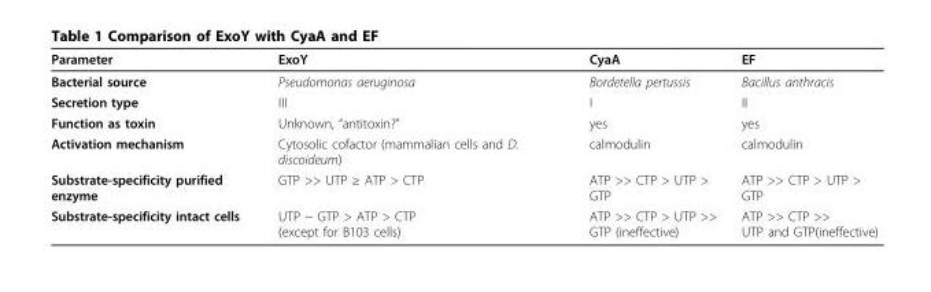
<table><thead><tr><td>Parameter</td><td>ExoY</td><td>CyaA</td><td>EF</td></tr></thead><tbody><tr><td>Bacterial source</td><td>Pseudomonas aeruginosa</td><td>Bordetella pertussis</td><td>Bacillus anthracis</td></tr><tr><td>Secretion type</td><td>III</td><td>I</td><td>II</td></tr><tr><td>Function as toxin</td><td>Unknown, “antitoxin?”</td><td>yes</td><td>yes</td></tr><tr><td>Activation mechanism</td><td>Cytosolic cofactor (mammalian cells and D. discoideum)</td><td>calmodulin</td><td>calmodulin</td></tr><tr><td>Substrate-specificity purified enzyme</td><td>GTP &gt;&gt; UTP ≥ ATP &gt; CTP</td><td>ATP &gt;&gt; CTP &gt; UTP &gt; GTP</td><td>ATP &gt;&gt; CTP &gt; UTP &gt; GTP</td></tr><tr><td>Substrate-specificity intact cells</td><td>UTP ~ GTP &gt; ATP &gt; CTP (except for B103 cells)</td><td>ATP &gt;&gt; CTP &gt; UTP &gt;&gt; GTP (ineffective)</td><td>ATP &gt;&gt; CTP &gt;&gt; UTP and GTP(ineffective)</td></tr></tbody></table>